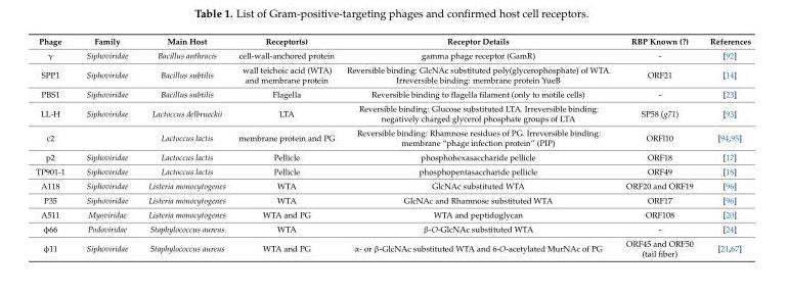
<table><thead><tr><td>Phage</td><td>Family</td><td>Main Host</td><td>Receptor(s)</td><td>Receptor Details</td><td>RBP Known (?)</td><td>References</td></tr></thead><tbody><tr><td>γ</td><td>Siphoviridae</td><td>Bacillus anthracis</td><td>cell-wall-anchored protein</td><td>gamma phage receptor (GamR)</td><td>-</td><td>[92]</td></tr><tr><td>SPP1</td><td>Siphoviridae</td><td>Bacillus subtilis</td><td>wall teichoic acid (WTA) and membrane protein</td><td>Reversible binding: GlcNAc substituted poly(glycerophosphate) of WTA. Irreversible binding: membrane protein YueB</td><td>ORF21</td><td>[14]</td></tr><tr><td>PBS1</td><td>Siphoviridae</td><td>Bacillus subtilis</td><td>Flagella</td><td>Reversible binding to flagella filament (only to motile cells)</td><td>-</td><td>[23]</td></tr><tr><td>LL-H</td><td>Siphoviridae</td><td>Lactoccus delbrueckii</td><td>LTA</td><td>Reversible binding: Glucose substituted LTA. Irreversible binding: negatively charged glycerol phosphate groups of LTA</td><td>SP58 (g71)</td><td>[93]</td></tr><tr><td>c2</td><td></td><td>Lactoccus lactis</td><td>membrane protein and PG</td><td>Reversible binding: Rhamnose residues of PG. Irreversible binding: membrane “phage infection protein” (PIP)</td><td>ORFl10</td><td>[94,95]</td></tr><tr><td>p2</td><td>Siphoviridae</td><td>Lactoccus lactis</td><td>Pellicle</td><td>phosphohexasaccharide pellicle</td><td>ORF18</td><td>[17]</td></tr><tr><td>TP901-1</td><td>Siphoviridae</td><td>Lactoccus lactis</td><td>Pellicle</td><td>phosphopentasaccharide pellicle</td><td>ORF49</td><td>[18]</td></tr><tr><td>A118</td><td>Siphoviridae</td><td>Listeria monocytogenes</td><td>WTA</td><td>GlcNAc substituted WTA</td><td>ORF20 and ORF19</td><td>[96]</td></tr><tr><td>P35</td><td>Siphoviridae</td><td>Listeria monocytogenes</td><td>WTA</td><td>GlcNAc and Rhamnose substituted WTA</td><td>ORF17</td><td>[96]</td></tr><tr><td>A511</td><td>Myoviridae</td><td>Listeria monocytogenes</td><td>WTA and PG</td><td>WTA and peptidoglycan</td><td>ORF108</td><td>[20]</td></tr><tr><td>φ66</td><td>Podoviridae</td><td>Staphylococcus aureus</td><td>WTA</td><td>β-O-GlcNAc substituted WTA</td><td>-</td><td>[24]</td></tr><tr><td>φ11</td><td>Siphoviridae</td><td>Staphylococcus aureus</td><td>WTA and PG</td><td>α- or β-GlcNAc substituted WTA and 6-O-acetylated MurNAc of PG</td><td>ORF45 and ORF50 (tail fiber)</td><td>[21,67]</td></tr></tbody></table>